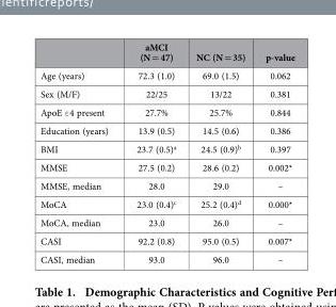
<table><thead><tr><td></td><td>aMCI (N = 47)</td><td>NC (N = 35)</td><td>p-value</td></tr></thead><tbody><tr><td>Age (years)</td><td>72.3 (1.0)</td><td>69.0 (1.5)</td><td>0.062</td></tr><tr><td>Sex (M/F)</td><td>22/25</td><td>13/22</td><td>0.381</td></tr><tr><td>ApoE ε 4 present</td><td>27.7%</td><td>25.7%</td><td>0.844</td></tr><tr><td>Education (years)</td><td>13.9 (0.5)</td><td>14.5 (0.6)</td><td>0.386</td></tr><tr><td>BMI</td><td>23.7 (0.5)<sup>a</sup></td><td>24.5 (0.9)<sup>b</sup></td><td>0.397</td></tr><tr><td>MMSE</td><td>27.5 (0.2)</td><td>28.6 (0.2)</td><td>0.002*</td></tr><tr><td>MMSE, median</td><td>28.0</td><td>29.0</td><td>–</td></tr><tr><td>MoCA</td><td>23.0 (0.4)<sup>c</sup></td><td>25.2 (0.4)<sup>d</sup></td><td>0.000*</td></tr><tr><td>MoCA, median</td><td>23.0</td><td>26.0</td><td>–</td></tr><tr><td>CASI</td><td>92.2 (0.8)</td><td>95.0 (0.5)</td><td>0.007*</td></tr><tr><td>CASI, median</td><td>93.0</td><td>96.0</td><td>–</td></tr></tbody></table>